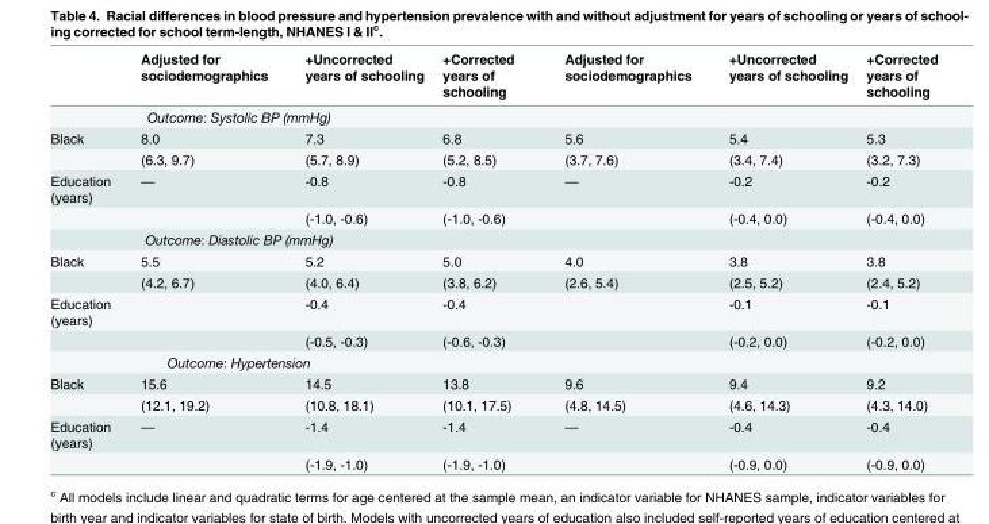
<table><thead><tr><td></td><td>Adjusted for sociodemographics</td><td>+Uncorrected years of schooling</td><td>+Corrected years of schooling</td><td>Adjusted for sociodemographics</td><td>+Uncorrected years of schooling</td><td>+Corrected years of schooling</td></tr></thead><tbody><tr><td colspan="7">Outcome: Systolic BP (mmHg)</td></tr><tr><td rowspan="2">Black</td><td>8.0</td><td>7.3</td><td>6.8</td><td>5.6</td><td>5.4</td><td>5.3</td></tr><tr><td>(6.3, 9.7)</td><td>(5.7, 8.9)</td><td>(5.2, 8.5)</td><td>(3.7, 7.6)</td><td>(3.4, 7.4)</td><td>(3.2, 7.3)</td></tr><tr><td rowspan="2">Education (years)</td><td>—</td><td>-0.8</td><td>-0.8</td><td>—</td><td>-0.2</td><td>-0.2</td></tr><tr><td></td><td>(-1.0, -0.6)</td><td>(-1.0, -0.6)</td><td></td><td>(-0.4, 0.0)</td><td>(-0.4, 0.0)</td></tr><tr><td colspan="7">Outcome: Diastolic BP (mmHg)</td></tr><tr><td rowspan="2">Black</td><td>5.5</td><td>5.2</td><td>5.0</td><td>4.0</td><td>3.8</td><td>3.8</td></tr><tr><td>(4.2, 6.7)</td><td>(4.0, 6.4)</td><td>(3.8, 6.2)</td><td>(2.6, 5.4)</td><td>(2.5, 5.2)</td><td>(2.4, 5.2)</td></tr><tr><td rowspan="2">Education (years)</td><td></td><td>-0.4</td><td>-0.4</td><td></td><td>-0.1</td><td>-0.1</td></tr><tr><td></td><td>(-0.5, -0.3)</td><td>(-0.6, -0.3)</td><td></td><td>(-0.2, 0.0)</td><td>(-0.2, 0.0)</td></tr><tr><td colspan="7">Outcome: Hypertension</td></tr><tr><td rowspan="2">Black</td><td>15.6</td><td>14.5</td><td>13.8</td><td>9.6</td><td>9.4</td><td>9.2</td></tr><tr><td>(12.1, 19.2)</td><td>(10.8, 18.1)</td><td>(10.1, 17.5)</td><td>(4.8, 14.5)</td><td>(4.6, 14.3)</td><td>(4.3, 14.0)</td></tr><tr><td rowspan="2">Education (years)</td><td>—</td><td>-1.4</td><td>-1.4</td><td>—</td><td>-0.4</td><td>-0.4</td></tr><tr><td></td><td>(-1.9, -1.0)</td><td>(-1.9, -1.0)</td><td></td><td>(-0.9, 0.0)</td><td>(-0.9, 0.0)</td></tr></tbody></table>